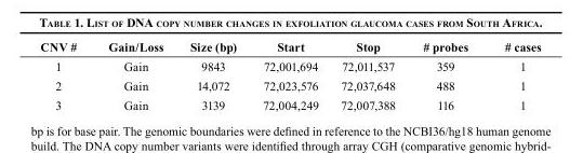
<table><thead><tr><td>CNV #</td><td>Gain/Loss</td><td>Size (bp)</td><td>Start</td><td>Stop</td><td># probes</td><td># cases</td></tr></thead><tbody><tr><td>1</td><td>Gain</td><td>9843</td><td>72,001,694</td><td>72,011,537</td><td>359</td><td>1</td></tr><tr><td>2</td><td>Gain</td><td>14,072</td><td>72,023,576</td><td>72,037,648</td><td>488</td><td>1</td></tr><tr><td>3</td><td>Gain</td><td>3139</td><td>72,004,249</td><td>72,007,388</td><td>116</td><td>1</td></tr></tbody></table>